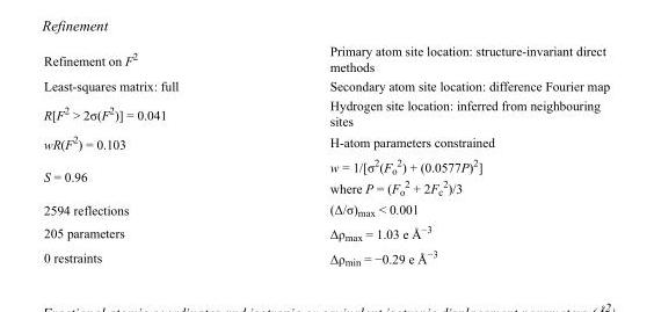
<table><tbody><tr><td>Refinement on F<sup>2</sup></td><td>Primary atom site location: structure-invariant direct methods</td></tr><tr><td>Least-squares matrix: full</td><td>Secondary atom site location: difference Fourier map</td></tr><tr><td>R[F<sup>2</sup> &gt; 2σ(F<sup>2</sup>)] = 0.041</td><td>Hydrogen site location: inferred from neighbouring sites</td></tr><tr><td>wR(F<sup>2</sup>) = 0.103</td><td>H-atom parameters constrained</td></tr><tr><td>S = 0.96</td><td>w = 1/[σ<sup>2</sup>(F<sub>o</sub> <sup>2</sup>) + (0.0577P)<sup>2</sup>] where P = (F<sub>o</sub> <sup>2</sup> + 2F<sub>c</sub> <sup>2</sup>)/3</td></tr><tr><td>2594 reflections</td><td>(Δ/σ)<sub>max</sub> &lt; 0.001</td></tr><tr><td>205 parameters</td><td>Δρ<sub>max</sub> = 1.03 e Å<sup>−3</sup></td></tr><tr><td>0 restraints</td><td>Δρ<sub>min</sub> = −0.29 e Å<sup>−3</sup></td></tr></tbody></table>